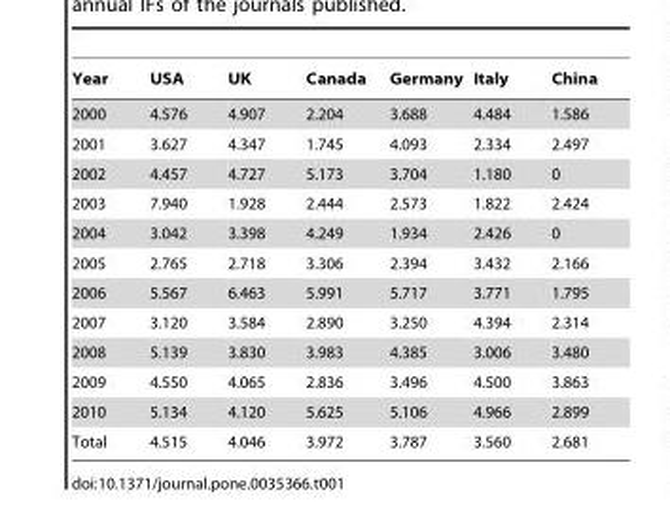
<table><thead><tr><td>Year</td><td>USA</td><td>UK</td><td>Canada</td><td>Germany</td><td>Italy</td><td>China</td></tr></thead><tbody><tr><td>2000</td><td>4.576</td><td>4.907</td><td>2.204</td><td>3.688</td><td>4.484</td><td>1.586</td></tr><tr><td>2001</td><td>3.627</td><td>4.347</td><td>1.745</td><td>4.093</td><td>2.334</td><td>2.497</td></tr><tr><td>2002</td><td>4.457</td><td>4.727</td><td>5.173</td><td>3.704</td><td>1.180</td><td>0</td></tr><tr><td>2003</td><td>7.940</td><td>1.928</td><td>2.444</td><td>2.573</td><td>1.822</td><td>2.424</td></tr><tr><td>2004</td><td>3.042</td><td>3.398</td><td>4.249</td><td>1.934</td><td>2.426</td><td>0</td></tr><tr><td>2005</td><td>2.765</td><td>2.718</td><td>3.306</td><td>2.394</td><td>3.432</td><td>2.166</td></tr><tr><td>2006</td><td>5.567</td><td>6.463</td><td>5.991</td><td>5.717</td><td>3.771</td><td>1.795</td></tr><tr><td>2007</td><td>3.120</td><td>3.584</td><td>2.890</td><td>3.250</td><td>4.394</td><td>2.314</td></tr><tr><td>2008</td><td>5.139</td><td>3.830</td><td>3.983</td><td>4.385</td><td>3.006</td><td>3.480</td></tr><tr><td>2009</td><td>4.550</td><td>4.065</td><td>2.836</td><td>3.496</td><td>4.500</td><td>3.863</td></tr><tr><td>2010</td><td>5.134</td><td>4.120</td><td>5.625</td><td>5.106</td><td>4.966</td><td>2.899</td></tr><tr><td>Total</td><td>4.515</td><td>4.046</td><td>3.972</td><td>3.787</td><td>3.560</td><td>2.681</td></tr></tbody></table>